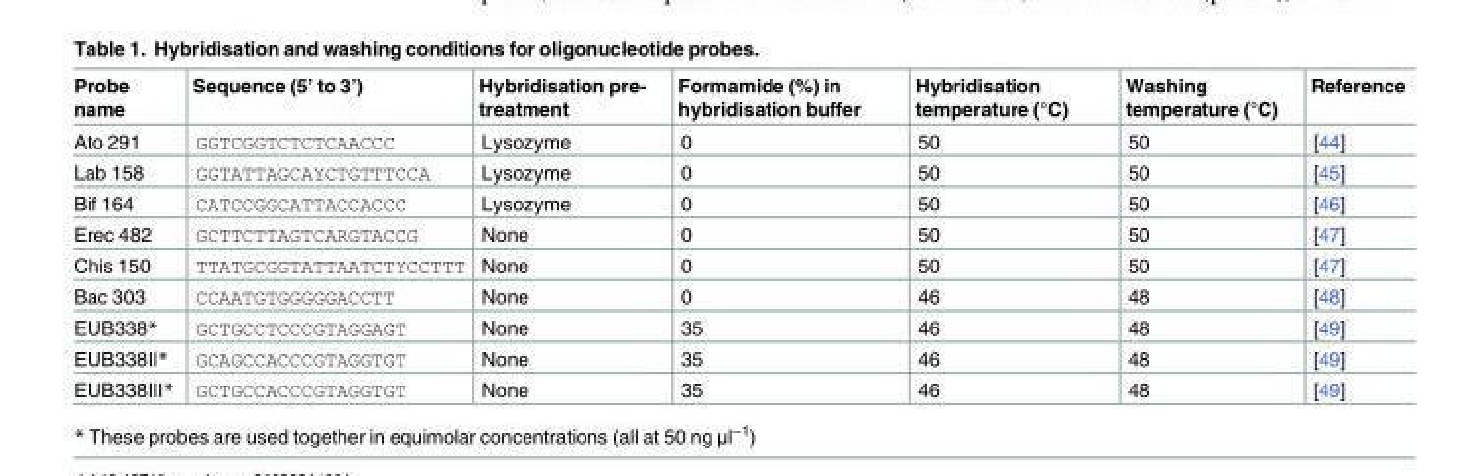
<table><thead><tr><td>Probe name</td><td>Sequence (5’ to 3’)</td><td>Hybridisation pre- treatment</td><td>Formamide (%) in hybridisation buffer</td><td>Hybridisation temperature (°C)</td><td>Washing temperature (°C)</td><td>Reference</td></tr></thead><tbody><tr><td>Ato 291</td><td>GGTCGGTCTCTCAACCC</td><td>Lysozyme</td><td>0</td><td>50</td><td>50</td><td>[44]</td></tr><tr><td>Lab 158</td><td>GGTATTAGCAYCTGTTTCCA</td><td>Lysozyme</td><td>0</td><td>50</td><td>50</td><td>[45]</td></tr><tr><td>Bif 164</td><td>CATCCGGCATTACCACCC</td><td>Lysozyme</td><td>0</td><td>50</td><td>50</td><td>[46]</td></tr><tr><td>Erec 482</td><td>GCTTCTTAGTCARGTACCG</td><td>None</td><td>0</td><td>50</td><td>50</td><td>[47]</td></tr><tr><td>Chis 150</td><td>TTATGCGGTATTAATCTYCCTTT</td><td>None</td><td>0</td><td>50</td><td>50</td><td>[47]</td></tr><tr><td>Bac 303</td><td>CCAATGTGGGGGACCTT</td><td>None</td><td>0</td><td>46</td><td>48</td><td>[48]</td></tr><tr><td>EUB338*</td><td>GCTGCCTCCCGTAGGAGT</td><td>None</td><td>35</td><td>46</td><td>48</td><td>[49]</td></tr><tr><td>EUB338II*</td><td>GCAGCCACCCGTAGGTGT</td><td>None</td><td>35</td><td>46</td><td>48</td><td>[49]</td></tr><tr><td>EUB338III*</td><td>GCTGCCACCCGTAGGTGT</td><td>None</td><td>35</td><td>46</td><td>48</td><td>[49]</td></tr></tbody></table>